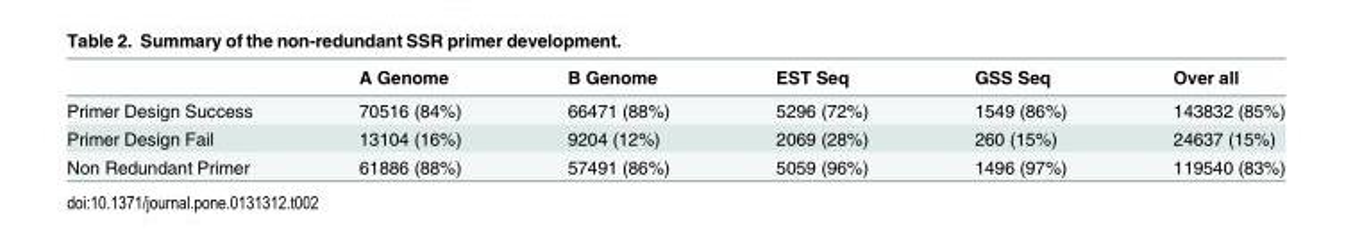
<table><thead><tr><td></td><td>A Genome</td><td>B Genome</td><td>EST Seq</td><td>GSS Seq</td><td>Over all</td></tr></thead><tbody><tr><td>Primer Design Success</td><td>70516 (84%)</td><td>66471 (88%)</td><td>5296 (72%)</td><td>1549 (86%)</td><td>143832 (85%)</td></tr><tr><td>Primer Design Fail</td><td>13104 (16%)</td><td>9204 (12%)</td><td>2069 (28%)</td><td>260 (15%)</td><td>24637 (15%)</td></tr><tr><td>Non Redundant Primer</td><td>61886 (88%)</td><td>57491 (86%)</td><td>5059 (96%)</td><td>1496 (97%)</td><td>119540 (83%)</td></tr></tbody></table>